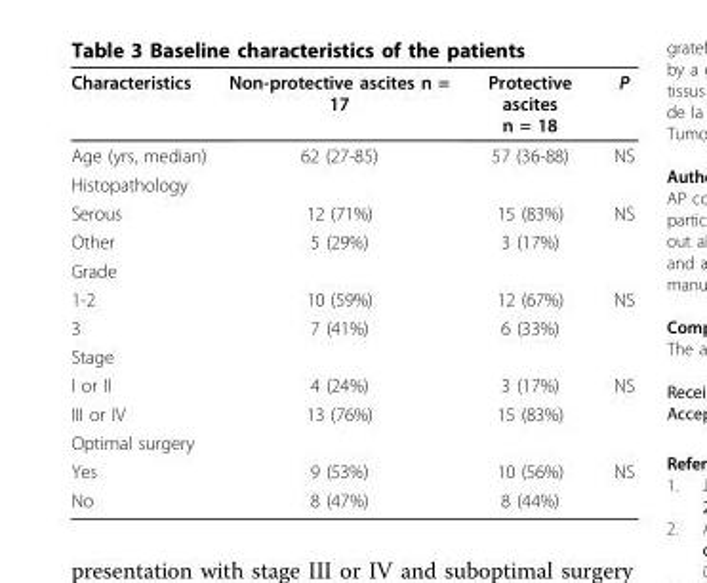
<table><thead><tr><td>Characteristics</td><td>Non-protective ascites n = 17</td><td>Protective ascites n = 18</td><td>P</td></tr></thead><tbody><tr><td>Age (yrs, median)</td><td>62 (27-85)</td><td>57 (36-88)</td><td>NS</td></tr><tr><td colspan="4">Histopathology</td></tr><tr><td>Serous</td><td>12 (71%)</td><td>15 (83%)</td><td>NS</td></tr><tr><td>Other</td><td>5 (29%)</td><td>3 (17%)</td><td></td></tr><tr><td colspan="4">Grade</td></tr><tr><td>1-2</td><td>10 (59%)</td><td>12 (67%)</td><td>NS</td></tr><tr><td>3</td><td>7 (41%)</td><td>6 (33%)</td><td></td></tr><tr><td colspan="4">Stage</td></tr><tr><td>I or II</td><td>4 (24%)</td><td>3 (17%)</td><td>NS</td></tr><tr><td>III or IV</td><td>13 (76%)</td><td>15 (83%)</td><td></td></tr><tr><td colspan="4">Optimal surgery</td></tr><tr><td>Yes</td><td>9 (53%)</td><td>10 (56%)</td><td>NS</td></tr><tr><td>No</td><td>8 (47%)</td><td>8 (44%)</td><td></td></tr></tbody></table>